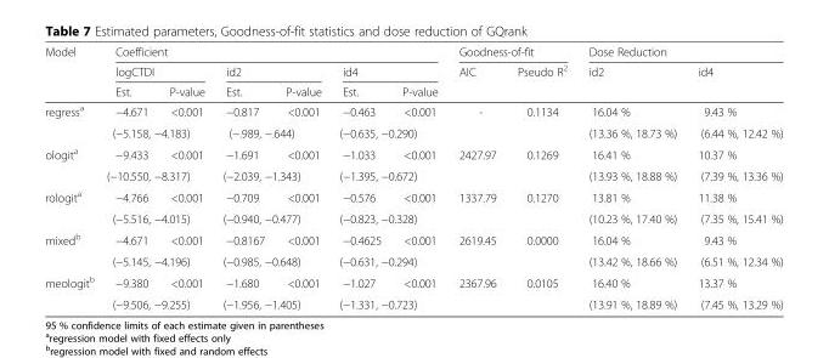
<table><thead><tr><td rowspan="3">Model</td><td colspan="6">Coefficient</td><td colspan="2">Goodness-of-fit</td><td colspan="2">Dose Reduction</td></tr><tr><td colspan="2">logCTDI</td><td colspan="2">id2</td><td colspan="2">id4</td><td rowspan="2">AIC</td><td rowspan="2">Pseudo R<sup>2</sup></td><td rowspan="2">id2</td><td rowspan="2">id4</td></tr><tr><td>Est.</td><td>P-value</td><td>Est.</td><td>P-value</td><td>Est.</td><td>P-value</td></tr></thead><tbody><tr><td rowspan="2">regress<sup>a</sup></td><td>−4.671</td><td>&lt;0.001</td><td>−0.817</td><td>&lt;0.001</td><td>−0.463</td><td>&lt;0.001</td><td rowspan="2">-</td><td rowspan="2">0.1134</td><td>16.04 %</td><td>9.43 %</td></tr><tr><td colspan="2">(−5.158, −4.183)</td><td colspan="2">(−.989, −.644)</td><td colspan="2">(−0.635, −0.290)</td><td>(13.36 %, 18.73 %)</td><td>(6.44 %, 12.42 %)</td></tr><tr><td rowspan="2">ologit<sup>a</sup></td><td>−9.433</td><td>&lt;0.001</td><td>−1.691</td><td>&lt;0.001</td><td>−1.033</td><td>&lt;0.001</td><td rowspan="2">2427.97</td><td rowspan="2">0.1269</td><td>16.41 %</td><td>10.37 %</td></tr><tr><td colspan="2">(−10.550, −8.317)</td><td colspan="2">(−2.039, −1.343)</td><td colspan="2">(−1.395, −0.672)</td><td>(13.93 %, 18.88 %)</td><td>(7.39 %, 13.36 %)</td></tr><tr><td rowspan="2">rologit<sup>a</sup></td><td>−4.766</td><td>&lt;0.001</td><td>−0.709</td><td>&lt;0.001</td><td>−0.576</td><td>&lt;0.001</td><td rowspan="2">1337.79</td><td rowspan="2">0.1270</td><td>13.81 %</td><td>11.38 %</td></tr><tr><td colspan="2">(−5.516, −4.015)</td><td colspan="2">(−0.940, −0.477)</td><td colspan="2">(−0.823, −0.328)</td><td>(10.23 %, 17.40 %)</td><td>(7.35 %, 15.41 %)</td></tr><tr><td rowspan="2">mixed<sup>b</sup></td><td>−4.671</td><td>&lt;0.001</td><td>−0.8167</td><td>&lt;0.001</td><td>−0.4625</td><td>&lt;0.001</td><td rowspan="2">2619.45</td><td rowspan="2">0.0000</td><td>16.04 %</td><td>9.43 %</td></tr><tr><td colspan="2">(−5.145, −4.196)</td><td colspan="2">(−0.985, −0.648)</td><td colspan="2">(−0.631, −0.294)</td><td>(13.42 %, 18.66 %)</td><td>(6.51 %, 12.34 %)</td></tr><tr><td rowspan="2">meologit<sup>b</sup></td><td>−9.380</td><td>&lt;0.001</td><td>−1.680</td><td>&lt;0.001</td><td>−1.027</td><td>&lt;0.001</td><td rowspan="2">2367.96</td><td rowspan="2">0.0105</td><td>16.40 %</td><td>13.37 %</td></tr><tr><td colspan="2">(−9.506, −9.255)</td><td colspan="2">(−1.956, −1.405)</td><td colspan="2">(−1.331, −0.723)</td><td>(13.91 %, 18.89 %)</td><td>(7.45 %, 13.29 %)</td></tr></tbody></table>